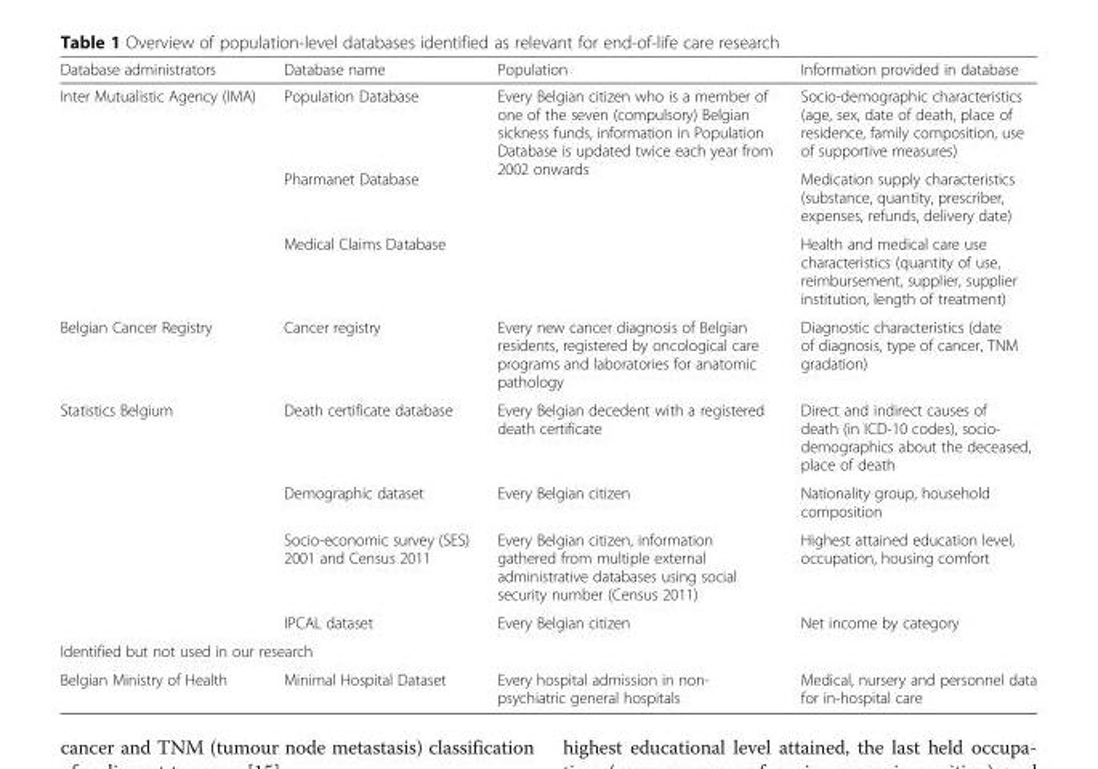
<table><thead><tr><td>Database administrators</td><td>Database name</td><td>Population</td><td>Information provided in database</td></tr></thead><tbody><tr><td rowspan="3">Inter Mutualistic Agency (IMA)</td><td>Population Database</td><td rowspan="3">Every Belgian citizen who is a member of one of the seven (compulsory) Belgian sickness funds, information in Population Database is updated twice each year from 2002 onwards</td><td>Socio-demographic characteristics (age, sex, date of death, place of residence, family composition, use of supportive measures)</td></tr><tr><td>Pharmanet Database</td><td>Medication supply characteristics (substance, quantity, prescriber, expenses, refunds, delivery date)</td></tr><tr><td>Medical Claims Database</td><td>Health and medical care use characteristics (quantity of use, reimbursement, supplier, supplier institution, length of treatment)</td></tr><tr><td>Belgian Cancer Registry</td><td>Cancer registry</td><td>Every new cancer diagnosis of Belgian residents, registered by oncological care programs and laboratories for anatomic pathology</td><td>Diagnostic characteristics (date of diagnosis, type of cancer, TNM gradation)</td></tr><tr><td rowspan="4">Statistics Belgium</td><td>Death certificate database</td><td>Every Belgian decedent with a registered death certificate</td><td>Direct and indirect causes of death (in ICD-10 codes), socio- demographics about the deceased, place of death</td></tr><tr><td>Demographic dataset</td><td>Every Belgian citizen</td><td>Nationality group, household composition</td></tr><tr><td>Socio-economic survey (SES) 2001 and Census 2011</td><td>Every Belgian citizen, information gathered from multiple external administrative databases using social security number (Census 2011)</td><td>Highest attained education level, occupation, housing comfort</td></tr><tr><td>IPCAL dataset</td><td>Every Belgian citizen</td><td>Net income by category</td></tr><tr><td colspan="4">Identified but not used in our research</td></tr><tr><td>Belgian Ministry of Health</td><td>Minimal Hospital Dataset</td><td>Every hospital admission in non- psychiatric general hospitals</td><td>Medical, nursery and personnel data for in-hospital care</td></tr></tbody></table>